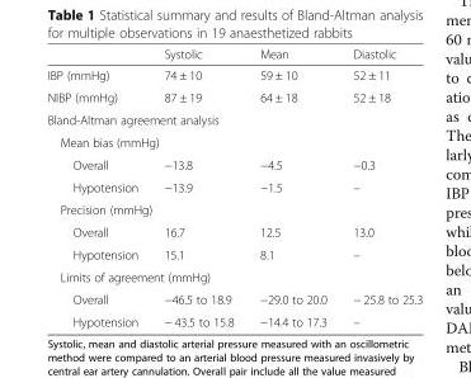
<table><thead><tr><td></td><td>Systolic</td><td>Mean</td><td>Diastolic</td></tr></thead><tbody><tr><td>IBP (mmHg)</td><td>74 ± 10</td><td>59 ± 10</td><td>52 ± 11</td></tr><tr><td>NIBP (mmHg)</td><td>87 ± 19</td><td>64 ± 18</td><td>52 ± 18</td></tr><tr><td colspan="4">Bland-Altman agreement analysis</td></tr><tr><td colspan="4">Mean bias (mmHg)</td></tr><tr><td>Overall</td><td>−13.8</td><td>−4.5</td><td>−0.3</td></tr><tr><td>Hypotension</td><td>−13.9</td><td>−1.5</td><td>–</td></tr><tr><td colspan="4">Precision (mmHg)</td></tr><tr><td>Overall</td><td>16.7</td><td>12.5</td><td>13.0</td></tr><tr><td>Hypotension</td><td>15.1</td><td>8.1</td><td>–</td></tr><tr><td colspan="4">Limits of agreement (mmHg)</td></tr><tr><td>Overall</td><td>−46.5 to 18.9</td><td>−29.0 to 20.0</td><td>− 25.8 to 25.3</td></tr><tr><td>Hypotension</td><td>− 43.5 to 15.8</td><td>−14.4 to 17.3</td><td>–</td></tr></tbody></table>